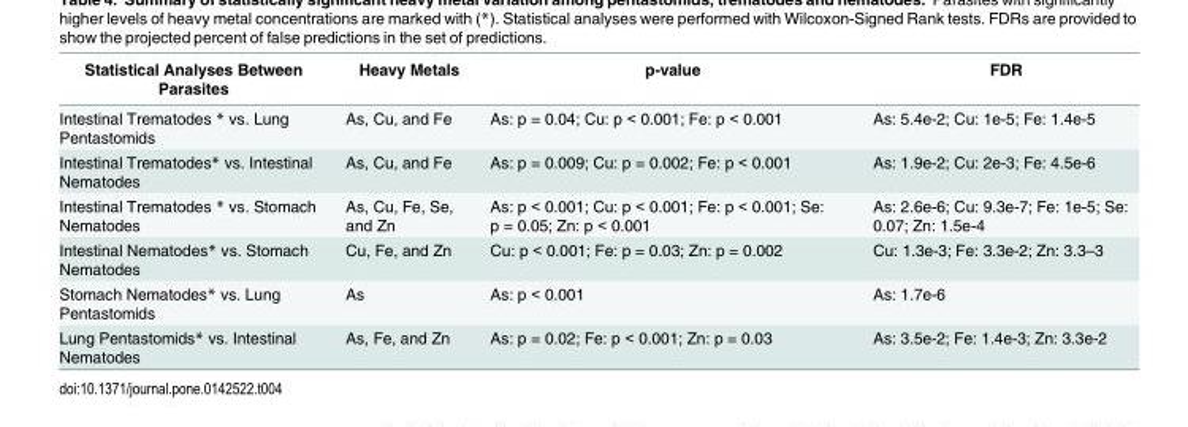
<table><thead><tr><td>Statistical Analyses Between Parasites</td><td>Heavy Metals</td><td>p-value</td><td>FDR</td></tr></thead><tbody><tr><td>Intestinal Trematodes * vs. Lung Pentastomids</td><td>As, Cu, and Fe</td><td>As: p = 0.04; Cu: p &lt; 0.001; Fe: p &lt; 0.001</td><td>As: 5.4e-2; Cu: 1e-5; Fe: 1.4e-5</td></tr><tr><td>Intestinal Trematodes* vs. Intestinal Nematodes</td><td>As, Cu, and Fe</td><td>As: p = 0.009; Cu: p = 0.002; Fe: p &lt; 0.001</td><td>As: 1.9e-2; Cu: 2e-3; Fe: 4.5e-6</td></tr><tr><td>Intestinal Trematodes * vs. Stomach Nematodes</td><td>As, Cu, Fe, Se, and Zn</td><td>As: p &lt; 0.001; Cu: p &lt; 0.001; Fe: p &lt; 0.001; Se: p = 0.05; Zn: p &lt; 0.001</td><td>As: 2.6e-6; Cu: 9.3e-7; Fe: 1e-5; Se: 0.07; Zn: 1.5e-4</td></tr><tr><td>Intestinal Nematodes* vs. Stomach Nematodes</td><td>Cu, Fe, and Zn</td><td>Cu: p &lt; 0.001; Fe: p = 0.03; Zn: p = 0.002</td><td>Cu: 1.3e-3; Fe: 3.3e-2; Zn: 3.3–3</td></tr><tr><td>Stomach Nematodes* vs. Lung Pentastomids</td><td>As</td><td>As: p &lt; 0.001</td><td>As: 1.7e-6</td></tr><tr><td>Lung Pentastomids* vs. Intestinal Nematodes</td><td>As, Fe, and Zn</td><td>As: p = 0.02; Fe: p &lt; 0.001; Zn: p = 0.03</td><td>As: 3.5e-2; Fe: 1.4e-3; Zn: 3.3e-2</td></tr></tbody></table>